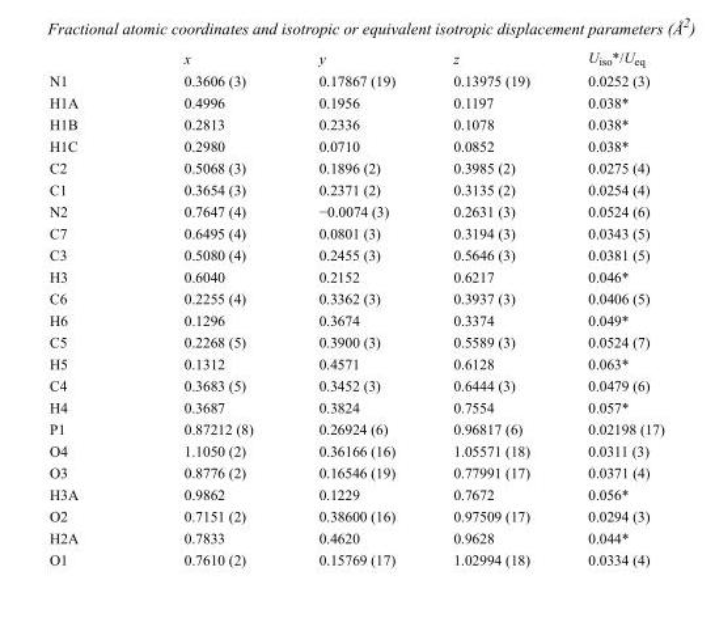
<table><thead><tr><td></td><td>x</td><td>y</td><td>z</td><td>U<sub>iso</sub>*/U<sub>eq</sub></td></tr></thead><tbody><tr><td>N1</td><td>0.3606 (3)</td><td>0.17867 (19)</td><td>0.13975 (19)</td><td>0.0252 (3)</td></tr><tr><td>H1A</td><td>0.4996</td><td>0.1956</td><td>0.1197</td><td>0.038*</td></tr><tr><td>H1B</td><td>0.2813</td><td>0.2336</td><td>0.1078</td><td>0.038*</td></tr><tr><td>H1C</td><td>0.2980</td><td>0.0710</td><td>0.0852</td><td>0.038*</td></tr><tr><td>C2</td><td>0.5068 (3)</td><td>0.1896 (2)</td><td>0.3985 (2)</td><td>0.0275 (4)</td></tr><tr><td>C1</td><td>0.3654 (3)</td><td>0.2371 (2)</td><td>0.3135 (2)</td><td>0.0254 (4)</td></tr><tr><td>N2</td><td>0.7647 (4)</td><td>−0.0074 (3)</td><td>0.2631 (3)</td><td>0.0524 (6)</td></tr><tr><td>C7</td><td>0.6495 (4)</td><td>0.0801 (3)</td><td>0.3194 (3)</td><td>0.0343 (5)</td></tr><tr><td>C3</td><td>0.5080 (4)</td><td>0.2455 (3)</td><td>0.5646 (3)</td><td>0.0381 (5)</td></tr><tr><td>H3</td><td>0.6040</td><td>0.2152</td><td>0.6217</td><td>0.046*</td></tr><tr><td>C6</td><td>0.2255 (4)</td><td>0.3362 (3)</td><td>0.3937 (3)</td><td>0.0406 (5)</td></tr><tr><td>H6</td><td>0.1296</td><td>0.3674</td><td>0.3374</td><td>0.049*</td></tr><tr><td>C5</td><td>0.2268 (5)</td><td>0.3900 (3)</td><td>0.5589 (3)</td><td>0.0524 (7)</td></tr><tr><td>H5</td><td>0.1312</td><td>0.4571</td><td>0.6128</td><td>0.063*</td></tr><tr><td>C4</td><td>0.3683 (5)</td><td>0.3452 (3)</td><td>0.6444 (3)</td><td>0.0479 (6)</td></tr><tr><td>H4</td><td>0.3687</td><td>0.3824</td><td>0.7554</td><td>0.057*</td></tr><tr><td>P1</td><td>0.87212 (8)</td><td>0.26924 (6)</td><td>0.96817 (6)</td><td>0.02198 (17)</td></tr><tr><td>O4</td><td>1.1050 (2)</td><td>0.36166 (16)</td><td>1.05571 (18)</td><td>0.0311 (3)</td></tr><tr><td>O3</td><td>0.8776 (2)</td><td>0.16546 (19)</td><td>0.77991 (17)</td><td>0.0371 (4)</td></tr><tr><td>H3A</td><td>0.9862</td><td>0.1229</td><td>0.7672</td><td>0.056*</td></tr><tr><td>O2</td><td>0.7151 (2)</td><td>0.38600 (16)</td><td>0.97509 (17)</td><td>0.0294 (3)</td></tr><tr><td>H2A</td><td>0.7833</td><td>0.4620</td><td>0.9628</td><td>0.044*</td></tr><tr><td>O1</td><td>0.7610 (2)</td><td>0.15769 (17)</td><td>1.02994 (18)</td><td>0.0334 (4)</td></tr></tbody></table>